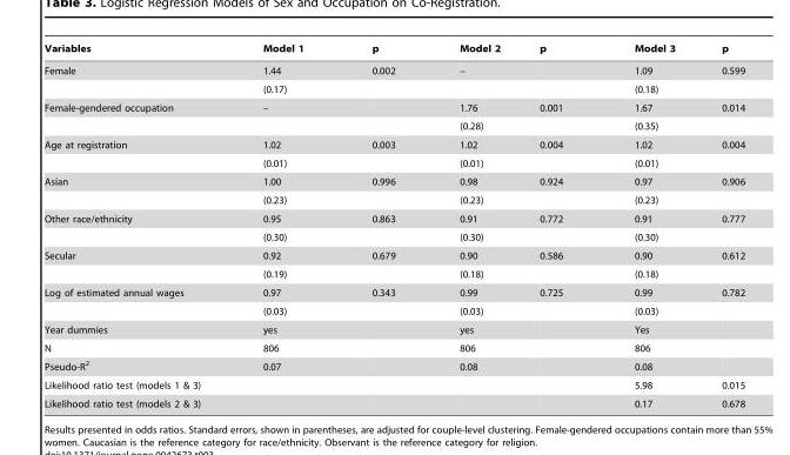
<table><thead><tr><td>Variables</td><td>Model 1</td><td>p</td><td>Model 2</td><td>p</td><td>Model 3</td><td>p</td></tr></thead><tbody><tr><td rowspan="2">Female</td><td>1.44</td><td>0.002</td><td>–</td><td></td><td>1.09</td><td>0.599</td></tr><tr><td>(0.17)</td><td></td><td></td><td></td><td>(0.18)</td><td></td></tr><tr><td rowspan="2">Female-gendered occupation</td><td>–</td><td></td><td>1.76</td><td>0.001</td><td>1.67</td><td>0.014</td></tr><tr><td></td><td></td><td>(0.28)</td><td></td><td>(0.35)</td><td></td></tr><tr><td rowspan="2">Age at registration</td><td>1.02</td><td>0.003</td><td>1.02</td><td>0.004</td><td>1.02</td><td>0.004</td></tr><tr><td>(0.01)</td><td></td><td>(0.01)</td><td></td><td>(0.01)</td><td></td></tr><tr><td rowspan="2">Asian</td><td>1.00</td><td>0.996</td><td>0.98</td><td>0.924</td><td>0.97</td><td>0.906</td></tr><tr><td>(0.23)</td><td></td><td>(0.23)</td><td></td><td>(0.23)</td><td></td></tr><tr><td rowspan="2">Other race/ethnicity</td><td>0.95</td><td>0.863</td><td>0.91</td><td>0.772</td><td>0.91</td><td>0.777</td></tr><tr><td>(0.30)</td><td></td><td>(0.30)</td><td></td><td>(0.30)</td><td></td></tr><tr><td rowspan="2">Secular</td><td>0.92</td><td>0.679</td><td>0.90</td><td>0.586</td><td>0.90</td><td>0.612</td></tr><tr><td>(0.19)</td><td></td><td>(0.18)</td><td></td><td>(0.18)</td><td></td></tr><tr><td rowspan="2">Log of estimated annual wages</td><td>0.97</td><td>0.343</td><td>0.99</td><td>0.725</td><td>0.99</td><td>0.782</td></tr><tr><td>(0.03)</td><td></td><td>(0.03)</td><td></td><td>(0.03)</td><td></td></tr><tr><td>Year dummies</td><td>yes</td><td></td><td>yes</td><td></td><td>Yes</td><td></td></tr><tr><td>N</td><td>806</td><td></td><td>806</td><td></td><td>806</td><td></td></tr><tr><td>Pseudo-R<sup>2</sup></td><td>0.07</td><td></td><td>0.08</td><td></td><td>0.08</td><td></td></tr><tr><td>Likelihood ratio test (models 1 &amp; 3)</td><td></td><td></td><td></td><td></td><td>5.98</td><td>0.015</td></tr><tr><td>Likelihood ratio test (models 2 &amp; 3)</td><td></td><td></td><td></td><td></td><td>0.17</td><td>0.678</td></tr></tbody></table>